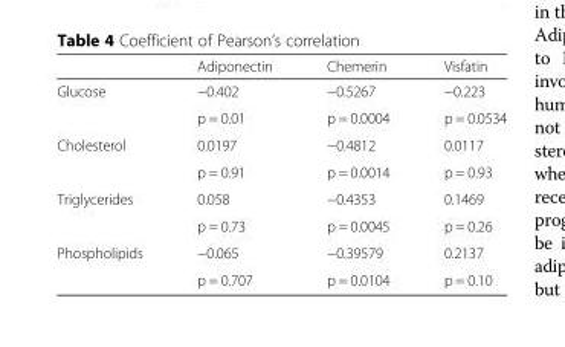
<table><thead><tr><td></td><td>Adiponectin</td><td>Chemerin</td><td>Visfatin</td></tr></thead><tbody><tr><td rowspan="2">Glucose</td><td>−0.402</td><td>−0.5267</td><td>−0.223</td></tr><tr><td>p = 0.01</td><td>p = 0.0004</td><td>p = 0.0534</td></tr><tr><td rowspan="2">Cholesterol</td><td>0.0197</td><td>−0.4812</td><td>0.0117</td></tr><tr><td>p = 0.91</td><td>p = 0.0014</td><td>p = 0.93</td></tr><tr><td rowspan="2">Triglycerides</td><td>0.058</td><td>−0.4353</td><td>0.1469</td></tr><tr><td>p = 0.73</td><td>p = 0.0045</td><td>p = 0.26</td></tr><tr><td rowspan="2">Phospholipids</td><td>−0.065</td><td>−0.39579</td><td>0.2137</td></tr><tr><td>p = 0.707</td><td>p = 0.0104</td><td>p = 0.10</td></tr></tbody></table>